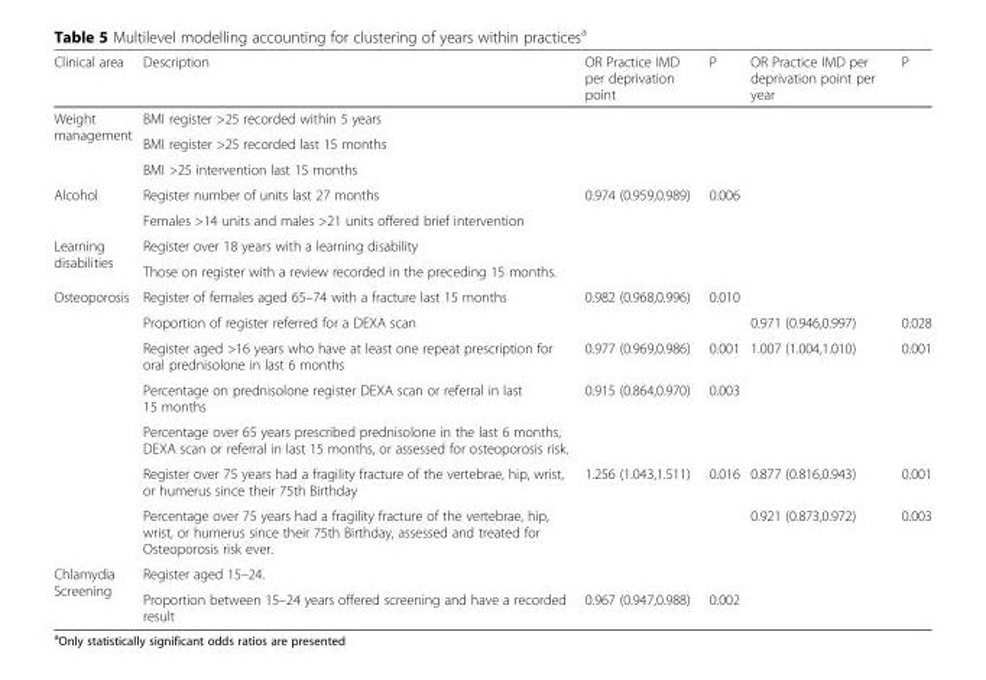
<table><thead><tr><td>Clinical area</td><td>Description</td><td>OR Practice IMD per deprivation point</td><td>P</td><td>OR Practice IMD per deprivation point per year</td><td>P</td></tr></thead><tbody><tr><td rowspan="3">Weight management</td><td>BMI register &gt;25 recorded within 5 years</td><td></td><td></td><td></td><td></td></tr><tr><td>BMI register &gt;25 recorded last 15 months</td><td></td><td></td><td></td><td></td></tr><tr><td>BMI &gt;25 intervention last 15 months</td><td></td><td></td><td></td><td></td></tr><tr><td rowspan="2">Alcohol</td><td>Register number of units last 27 months</td><td>0.974 (0.959,0.989)</td><td>0.006</td><td></td><td></td></tr><tr><td>Females &gt;14 units and males &gt;21 units offered brief intervention</td><td></td><td></td><td></td><td></td></tr><tr><td rowspan="2">Learning disabilities</td><td>Register over 18 years with a learning disability</td><td></td><td></td><td></td><td></td></tr><tr><td>Those on register with a review recorded in the preceding 15 months.</td><td></td><td></td><td></td><td></td></tr><tr><td rowspan="7">Osteoporosis</td><td>Register of females aged 65–74 with a fracture last 15 months</td><td>0.982 (0.968,0.996)</td><td>0.010</td><td></td><td></td></tr><tr><td>Proportion of register referred for a DEXA scan</td><td></td><td></td><td>0.971 (0.946,0.997)</td><td>0.028</td></tr><tr><td>Register aged &gt;16 years who have at least one repeat prescription for oral prednisolone in last 6 months</td><td>0.977 (0.969,0.986)</td><td>0.001</td><td>1.007 (1.004,1.010)</td><td>0.001</td></tr><tr><td>Percentage on prednisolone register DEXA scan or referral in last 15 months</td><td>0.915 (0.864,0.970)</td><td>0.003</td><td></td><td></td></tr><tr><td>Percentage over 65 years prescribed prednisolone in the last 6 months, DEXA scan or referral in last 15 months, or assessed for osteoporosis risk.</td><td></td><td></td><td></td><td></td></tr><tr><td>Register over 75 years had a fragility fracture of the vertebrae, hip, wrist, or humerus since their 75th Birthday</td><td>1.256 (1.043,1.511)</td><td>0.016</td><td>0.877 (0.816,0.943)</td><td>0.001</td></tr><tr><td>Percentage over 75 years had a fragility fracture of the vertebrae, hip, wrist, or humerus since their 75th Birthday, assessed and treated for Osteoporosis risk ever.</td><td></td><td></td><td>0.921 (0.873,0.972)</td><td>0.003</td></tr><tr><td rowspan="2">Chlamydia Screening</td><td>Register aged 15–24.</td><td></td><td></td><td></td><td></td></tr><tr><td>Proportion between 15–24 years offered screening and have a recorded result</td><td>0.967 (0.947,0.988)</td><td>0.002</td><td></td><td></td></tr></tbody></table>